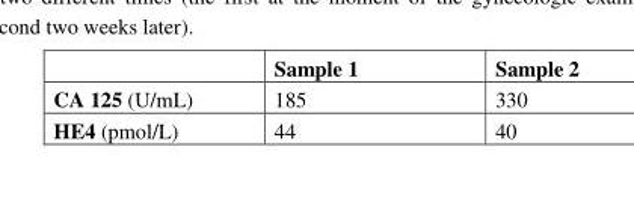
<table><thead><tr><td></td><td>Sample 1</td><td>Sample 2</td></tr></thead><tbody><tr><td>CA 125 (U/mL)</td><td>185</td><td>330</td></tr><tr><td>HE4 (pmol/L)</td><td>44</td><td>40</td></tr></tbody></table>